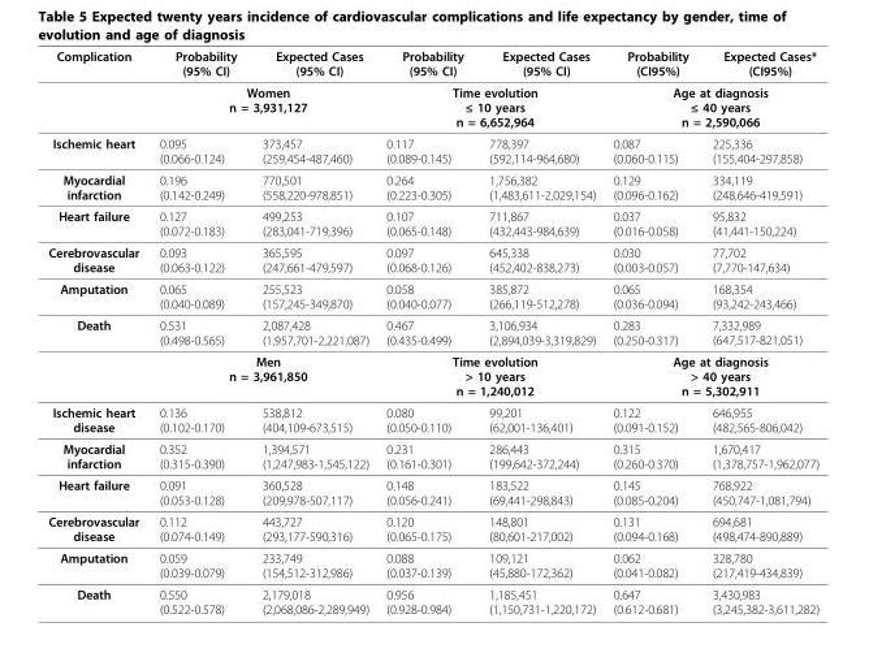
<table><thead><tr><td>Complication</td><td>Probability (95% CI)</td><td>Expected Cases (95% CI)</td><td>Probability (95% CI)</td><td>Expected Cases (95% CI)</td><td>Probability (CI95%)</td><td>Expected Cases* (CI95%)</td></tr></thead><tbody><tr><td></td><td colspan="2">Women n = 3,931,127</td><td colspan="2">Time evolution ≤ 10 years n = 6,652,964</td><td colspan="2">Age at diagnosis ≤ 40 years n = 2,590,066</td></tr><tr><td>Ischemic heart</td><td>0.095 (0.066-0.124)</td><td>373,457 (259,454-487,460)</td><td>0.117 (0.089-0.145)</td><td>778,397 (592,114-964,680)</td><td>0.087 (0.060-0.115)</td><td>225,336 (155,404-297,858)</td></tr><tr><td>Myocardial infarction</td><td>0.196 (0.142-0.249)</td><td>770,501 (558,220-978,851)</td><td>0.264 (0.223-0.305)</td><td>1,756,382 (1,483,611-2,029,154)</td><td>0.129 (0.096-0.162)</td><td>334,119 (248,646-419,591)</td></tr><tr><td>Heart failure</td><td>0.127 (0.072-0.183)</td><td>499,253 (283,041-719,396)</td><td>0.107 (0.065-0.148)</td><td>711,867 (432,443-984,639)</td><td>0.037 (0.016-0.058)</td><td>95,832 (41,441-150,224)</td></tr><tr><td>Cerebrovascular disease</td><td>0.093 (0.063-0.122)</td><td>365,595 (247,661-479,597)</td><td>0.097 (0.068-0.126)</td><td>645,338 (452,402-838,273)</td><td>0.030 (0.003-0.057)</td><td>77,702 (7,770-147,634)</td></tr><tr><td>Amputation</td><td>0.065 (0.040-0.089)</td><td>255,523 (157,245-349,870)</td><td>0.058 (0.040-0.077)</td><td>385,872 (266,119-512,278)</td><td>0.065 (0.036-0.094)</td><td>168,354 (93,242-243,466)</td></tr><tr><td rowspan="2">Death</td><td>0.531 (0.498-0.565)</td><td>2,087,428 (1,957,701-2,221,087)</td><td>0.467 (0.435-0.499)</td><td>3,106,934 (2,894,039-3,319,829)</td><td>0.283 (0.250-0.317)</td><td>7,332,989 (647,517-821,051)</td></tr><tr><td colspan="2">Men n = 3,961,850</td><td colspan="2">Time evolution &gt; 10 years n = 1,240,012</td><td colspan="2">Age at diagnosis &gt; 40 years n = 5,302,911</td></tr><tr><td>Ischemic heart disease</td><td>0.136 (0.102-0.170)</td><td>538,812 (404,109-673,515)</td><td>0.080 (0.050-0.110)</td><td>99,201 (62,001-136,401)</td><td>0.122 (0.091-0.152)</td><td>646,955 (482,565-806,042)</td></tr><tr><td>Myocardial infarction</td><td>0.352 (0.315-0.390)</td><td>1,394,571 (1,247,983-1,545,122)</td><td>0.231 (0.161-0.301)</td><td>286,443 (199,642-372,244)</td><td>0.315 (0.260-0.370)</td><td>1,670,417 (1,378,757-1,962,077)</td></tr><tr><td>Heart failure</td><td>0.091 (0.053-0.128)</td><td>360,528 (209,978-507,117)</td><td>0.148 (0.056-0.241)</td><td>183,522 (69,441-298,843)</td><td>0.145 (0.085-0.204)</td><td>768,922 (450,747-1,081,794)</td></tr><tr><td>Cerebrovascular disease</td><td>0.112 (0.074-0.149)</td><td>443,727 (293,177-590,316)</td><td>0.120 (0.065-0.175)</td><td>148,801 (80,601-217,002)</td><td>0.131 (0.094-0.168)</td><td>694,681 (498,474-890,889)</td></tr><tr><td>Amputation</td><td>0.059 (0.039-0.079)</td><td>233,749 (154,512-312,986)</td><td>0.088 (0.037-0.139)</td><td>109,121 (45,880-172,362)</td><td>0.062 (0.041-0.082)</td><td>328,780 (217,419-434,839)</td></tr><tr><td>Death</td><td>0.550 (0.522-0.578)</td><td>2,179,018 (2,068,086-2,289,949)</td><td>0.956 (0.928-0.984)</td><td>1,185,451 (1,150,731-1,220,172)</td><td>0.647 (0.612-0.681)</td><td>3,430,983 (3,245,382-3,611,282)</td></tr></tbody></table>